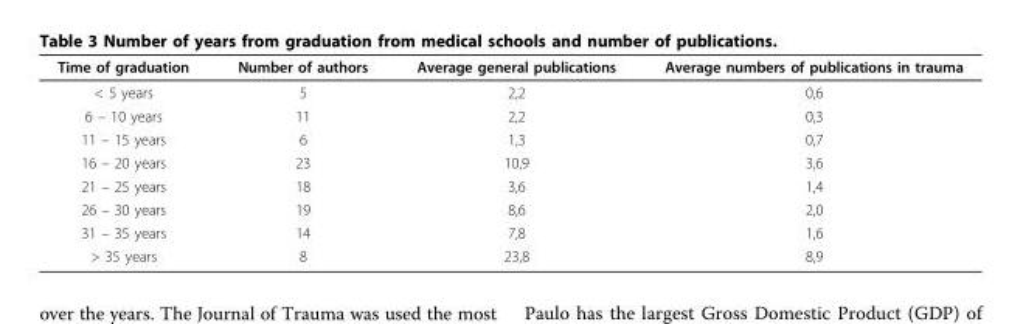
<table><thead><tr><td>Time of graduation</td><td>Number of authors</td><td>Average general publications</td><td>Average numbers of publications in trauma</td></tr></thead><tbody><tr><td>&lt; 5 years</td><td>5</td><td>2,2</td><td>0,6</td></tr><tr><td>6 – 10 years</td><td>11</td><td>2,2</td><td>0,3</td></tr><tr><td>11 – 15 years</td><td>6</td><td>1,3</td><td>0,7</td></tr><tr><td>16 – 20 years</td><td>23</td><td>10,9</td><td>3,6</td></tr><tr><td>21 – 25 years</td><td>18</td><td>3,6</td><td>1,4</td></tr><tr><td>26 – 30 years</td><td>19</td><td>8,6</td><td>2,0</td></tr><tr><td>31 – 35 years</td><td>14</td><td>7,8</td><td>1,6</td></tr><tr><td>&gt; 35 years</td><td>8</td><td>23,8</td><td>8,9</td></tr></tbody></table>